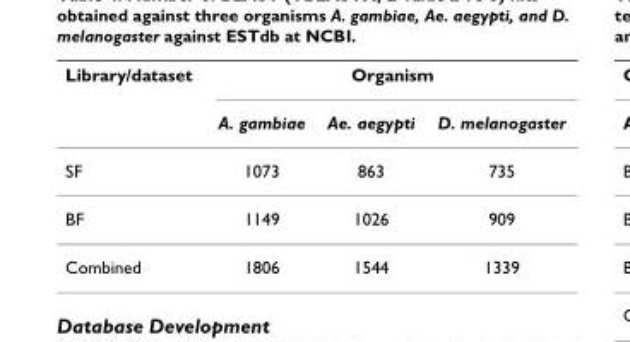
<table><thead><tr><td rowspan="2">Library/dataset</td><td colspan="3">Organism</td></tr><tr><td>A. gambiae</td><td>Ae. aegypti</td><td>D. melanogaster</td></tr></thead><tbody><tr><td>SF</td><td>1073</td><td>863</td><td>735</td></tr><tr><td>BF</td><td>1149</td><td>1026</td><td>909</td></tr><tr><td>Combined</td><td>1806</td><td>1544</td><td>1339</td></tr></tbody></table>